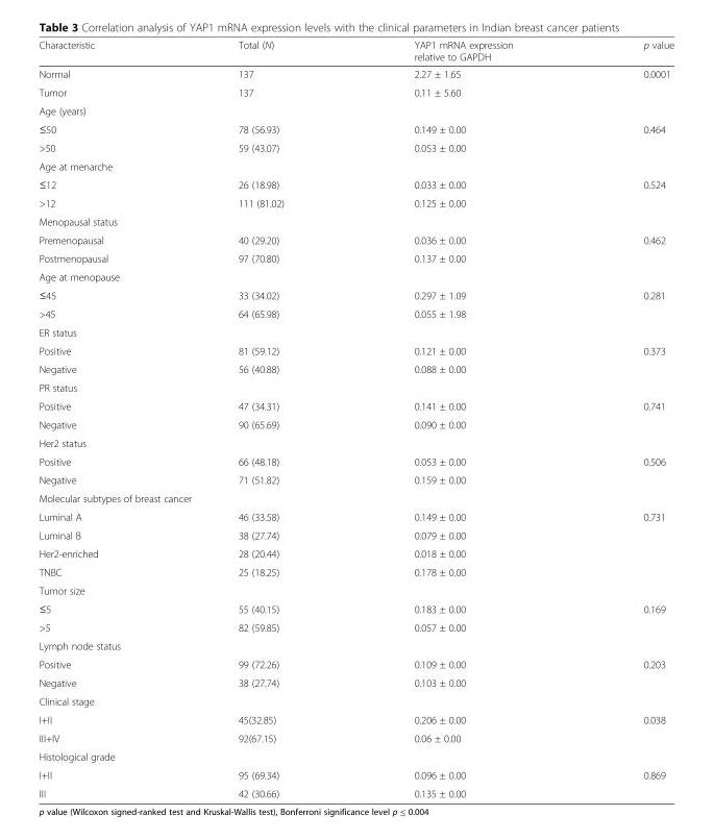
<table><thead><tr><td>Characteristic</td><td>Total (N)</td><td>YAP1 mRNA expression relative to GAPDH</td><td>p value</td></tr></thead><tbody><tr><td>Normal</td><td>137</td><td>2.27 ± 1.65</td><td>0.0001</td></tr><tr><td>Tumor</td><td>137</td><td>0.11 ± 5.60</td><td></td></tr><tr><td colspan="4">Age (years)</td></tr><tr><td>≤50</td><td>78 (56.93)</td><td>0.149 ± 0.00</td><td>0.464</td></tr><tr><td>&gt;50</td><td>59 (43.07)</td><td>0.053 ± 0.00</td><td></td></tr><tr><td colspan="4">Age at menarche</td></tr><tr><td>≤12</td><td>26 (18.98)</td><td>0.033 ± 0.00</td><td>0.524</td></tr><tr><td>&gt;12</td><td>111 (81.02)</td><td>0.125 ± 0.00</td><td></td></tr><tr><td colspan="4">Menopausal status</td></tr><tr><td>Premenopausal</td><td>40 (29.20)</td><td>0.036 ± 0.00</td><td>0.462</td></tr><tr><td>Postmenopausal</td><td>97 (70.80)</td><td>0.137 ± 0.00</td><td></td></tr><tr><td colspan="4">Age at menopause</td></tr><tr><td>≤45</td><td>33 (34.02)</td><td>0.297 ± 1.09</td><td>0.281</td></tr><tr><td>&gt;45</td><td>64 (65.98)</td><td>0.055 ± 1.98</td><td></td></tr><tr><td colspan="4">ER status</td></tr><tr><td>Positive</td><td>81 (59.12)</td><td>0.121 ± 0.00</td><td>0.373</td></tr><tr><td>Negative</td><td>56 (40.88)</td><td>0.088 ± 0.00</td><td></td></tr><tr><td colspan="4">PR status</td></tr><tr><td>Positive</td><td>47 (34.31)</td><td>0.141 ± 0.00</td><td>0.741</td></tr><tr><td>Negative</td><td>90 (65.69)</td><td>0.090 ± 0.00</td><td></td></tr><tr><td colspan="4">Her2 status</td></tr><tr><td>Positive</td><td>66 (48.18)</td><td>0.053 ± 0.00</td><td>0.506</td></tr><tr><td>Negative</td><td>71 (51.82)</td><td>0.159 ± 0.00</td><td></td></tr><tr><td colspan="4">Molecular subtypes of breast cancer</td></tr><tr><td>Luminal A</td><td>46 (33.58)</td><td>0.149 ± 0.00</td><td>0.731</td></tr><tr><td>Luminal B</td><td>38 (27.74)</td><td>0.079 ± 0.00</td><td></td></tr><tr><td>Her2-enriched</td><td>28 (20.44)</td><td>0.018 ± 0.00</td><td></td></tr><tr><td>TNBC</td><td>25 (18.25)</td><td>0.178 ± 0.00</td><td></td></tr><tr><td colspan="4">Tumor size</td></tr><tr><td>≤5</td><td>55 (40.15)</td><td>0.183 ± 0.00</td><td>0.169</td></tr><tr><td>&gt;5</td><td>82 (59.85)</td><td>0.057 ± 0.00</td><td></td></tr><tr><td colspan="4">Lymph node status</td></tr><tr><td>Positive</td><td>99 (72.26)</td><td>0.109 ± 0.00</td><td>0.203</td></tr><tr><td>Negative</td><td>38 (27.74)</td><td>0.103 ± 0.00</td><td></td></tr><tr><td colspan="4">Clinical stage</td></tr><tr><td>I+II</td><td>45(32.85)</td><td>0.206 ± 0.00</td><td>0.038</td></tr><tr><td>III+IV</td><td>92(67.15)</td><td>0.06 ± 0.00</td><td></td></tr><tr><td colspan="4">Histological grade</td></tr><tr><td>I+II</td><td>95 (69.34)</td><td>0.096 ± 0.00</td><td>0.869</td></tr><tr><td>III</td><td>42 (30.66)</td><td>0.135 ± 0.00</td><td></td></tr></tbody></table>